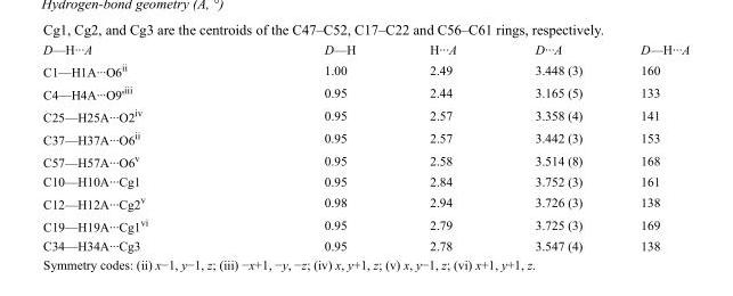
<table><tbody><tr><td>D—H···A</td><td>D—H</td><td>H···A</td><td>D···A</td><td>D—H···A</td></tr><tr><td>C1—H1A···O6<sup>ii</sup></td><td>1.00</td><td>2.49</td><td>3.448 (3)</td><td>160</td></tr><tr><td>C4—H4A···O9&#x27;<sup>iii</sup></td><td>0.95</td><td>2.44</td><td>3.165 (5)</td><td>133</td></tr><tr><td>C25—H25A···O2<sup>iv</sup></td><td>0.95</td><td>2.57</td><td>3.358 (4)</td><td>141</td></tr><tr><td>C37—H37A···O6<sup>ii</sup></td><td>0.95</td><td>2.57</td><td>3.442 (3)</td><td>153</td></tr><tr><td>C57—H57A···O6<sup>v</sup></td><td>0.95</td><td>2.58</td><td>3.514 (8)</td><td>168</td></tr><tr><td>C10—H10A···Cg1</td><td>0.95</td><td>2.84</td><td>3.752 (3)</td><td>161</td></tr><tr><td>C12—H12A···Cg2<sup>v</sup></td><td>0.98</td><td>2.94</td><td>3.726 (3)</td><td>138</td></tr><tr><td>C19—H19A···Cg1<sup>vi</sup></td><td>0.95</td><td>2.79</td><td>3.725 (3)</td><td>169</td></tr><tr><td>C34—H34A···Cg3</td><td>0.95</td><td>2.78</td><td>3.547 (4)</td><td>138</td></tr></tbody></table>